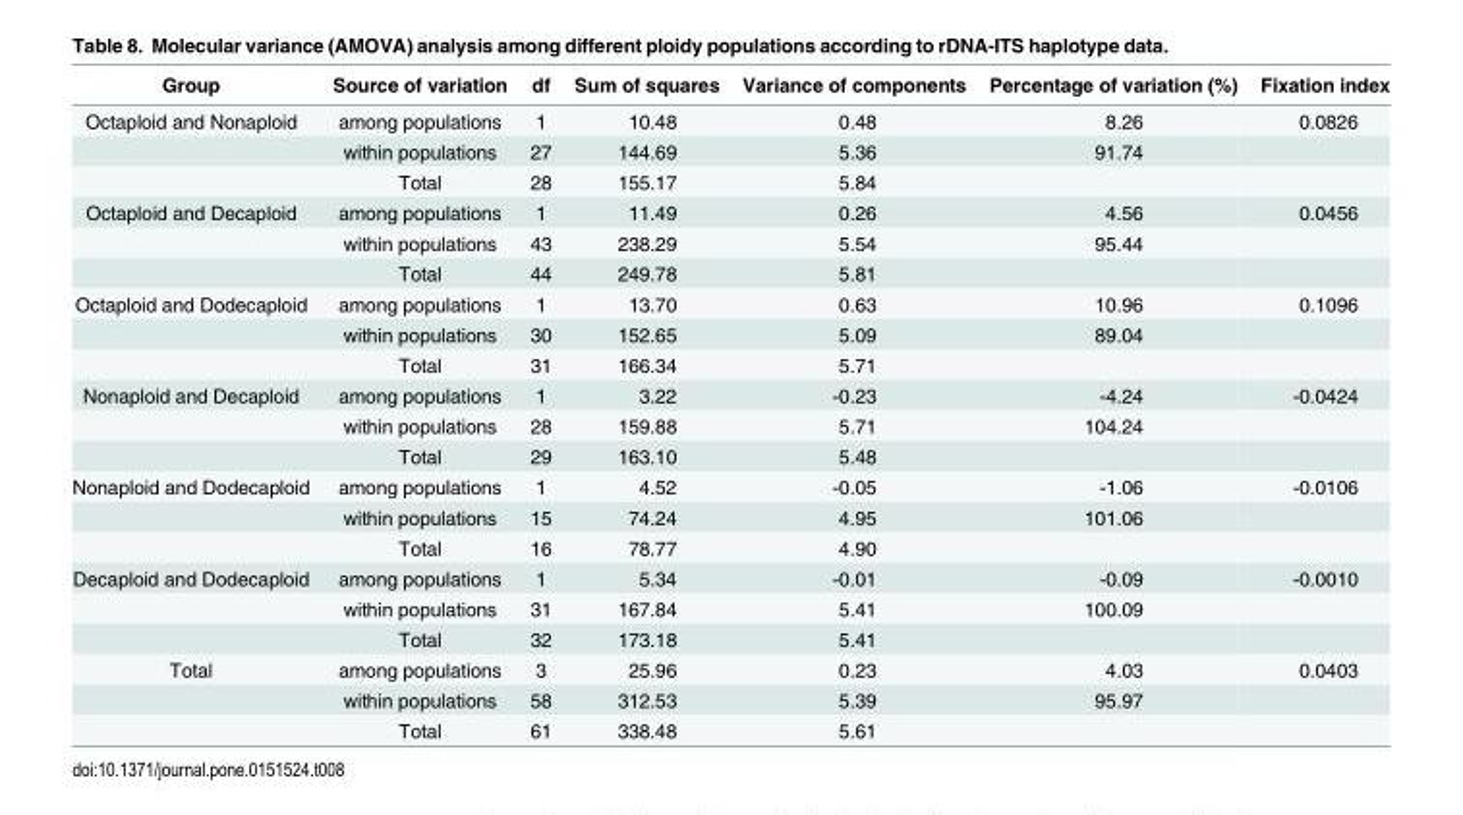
<table><thead><tr><td>Group</td><td>Source of variation</td><td>df</td><td>Sum of squares</td><td>Variance of components</td><td>Percentage of variation (%)</td><td>Fixation index</td></tr></thead><tbody><tr><td rowspan="3">Octaploid and Nonaploid</td><td>among populations</td><td>1</td><td>10.48</td><td>0.48</td><td>8.26</td><td>0.0826</td></tr><tr><td>within populations</td><td>27</td><td>144.69</td><td>5.36</td><td>91.74</td><td></td></tr><tr><td>Total</td><td>28</td><td>155.17</td><td>5.84</td><td></td><td></td></tr><tr><td rowspan="3">Octaploid and Decaploid</td><td>among populations</td><td>1</td><td>11.49</td><td>0.26</td><td>4.56</td><td>0.0456</td></tr><tr><td>within populations</td><td>43</td><td>238.29</td><td>5.54</td><td>95.44</td><td></td></tr><tr><td>Total</td><td>44</td><td>249.78</td><td>5.81</td><td></td><td></td></tr><tr><td rowspan="3">Octaploid and Dodecaploid</td><td>among populations</td><td>1</td><td>13.70</td><td>0.63</td><td>10.96</td><td>0.1096</td></tr><tr><td>within populations</td><td>30</td><td>152.65</td><td>5.09</td><td>89.04</td><td></td></tr><tr><td>Total</td><td>31</td><td>166.34</td><td>5.71</td><td></td><td></td></tr><tr><td rowspan="3">Nonaploid and Decaploid</td><td>among populations</td><td>1</td><td>3.22</td><td>-0.23</td><td>-4.24</td><td>-0.0424</td></tr><tr><td>within populations</td><td>28</td><td>159.88</td><td>5.71</td><td>104.24</td><td></td></tr><tr><td>Total</td><td>29</td><td>163.10</td><td>5.48</td><td></td><td></td></tr><tr><td rowspan="3">Nonaploid and Dodecaploid</td><td>among populations</td><td>1</td><td>4.52</td><td>-0.05</td><td>-1.06</td><td>-0.0106</td></tr><tr><td>within populations</td><td>15</td><td>74.24</td><td>4.95</td><td>101.06</td><td></td></tr><tr><td>Total</td><td>16</td><td>78.77</td><td>4.90</td><td></td><td></td></tr><tr><td rowspan="3">Decaploid and Dodecaploid</td><td>among populations</td><td>1</td><td>5.34</td><td>-0.01</td><td>-0.09</td><td>-0.0010</td></tr><tr><td>within populations</td><td>31</td><td>167.84</td><td>5.41</td><td>100.09</td><td></td></tr><tr><td>Total</td><td>32</td><td>173.18</td><td>5.41</td><td></td><td></td></tr><tr><td rowspan="3">Total</td><td>among populations</td><td>3</td><td>25.96</td><td>0.23</td><td>4.03</td><td>0.0403</td></tr><tr><td>within populations</td><td>58</td><td>312.53</td><td>5.39</td><td>95.97</td><td></td></tr><tr><td>Total</td><td>61</td><td>338.48</td><td>5.61</td><td></td><td></td></tr></tbody></table>